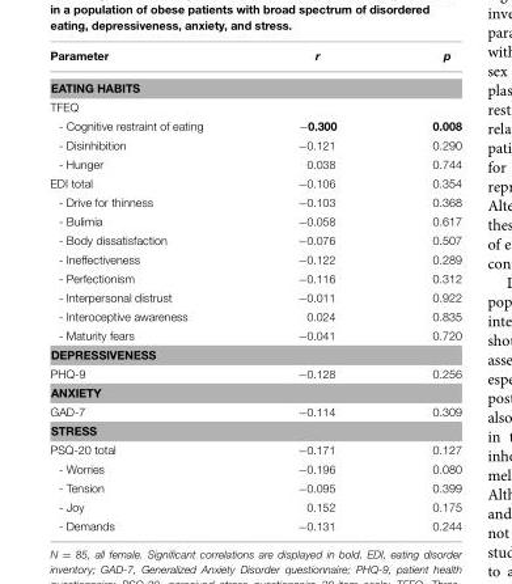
<table><thead><tr><td>Parameter</td><td>r</td><td>p</td></tr></thead><tbody><tr><td colspan="3">EATING HABITS</td></tr><tr><td colspan="3">TFEQ</td></tr><tr><td>- Cognitive restraint of eating</td><td>−0.300</td><td>0.008</td></tr><tr><td>- Disinhibition</td><td>−0.121</td><td>0.290</td></tr><tr><td>- Hunger</td><td>0.038</td><td>0.744</td></tr><tr><td>EDI total</td><td>−0.106</td><td>0.354</td></tr><tr><td>- Drive for thinness</td><td>−0.103</td><td>0.368</td></tr><tr><td>- Bulimia</td><td>−0.058</td><td>0.617</td></tr><tr><td>- Body dissatisfaction</td><td>−0.076</td><td>0.507</td></tr><tr><td>- Ineffectiveness</td><td>−0.122</td><td>0.289</td></tr><tr><td>- Perfectionism</td><td>−0.116</td><td>0.312</td></tr><tr><td>- Interpersonal distrust</td><td>−0.011</td><td>0.922</td></tr><tr><td>- Interoceptive awareness</td><td>0.024</td><td>0.835</td></tr><tr><td>- Maturity fears</td><td>−0.041</td><td>0.720</td></tr><tr><td colspan="3">DEPRESSIVENESS</td></tr><tr><td>PHQ-9</td><td>−0.128</td><td>0.256</td></tr><tr><td colspan="3">ANXIETY</td></tr><tr><td>GAD-7</td><td>−0.114</td><td>0.309</td></tr><tr><td colspan="3">STRESS</td></tr><tr><td>PSQ-20 total</td><td>−0.171</td><td>0.127</td></tr><tr><td>- Worries</td><td>−0.196</td><td>0.080</td></tr><tr><td>- Tension</td><td>−0.095</td><td>0.399</td></tr><tr><td>- Joy</td><td>0.152</td><td>0.175</td></tr><tr><td>- Demands</td><td>−0.131</td><td>0.244</td></tr></tbody></table>